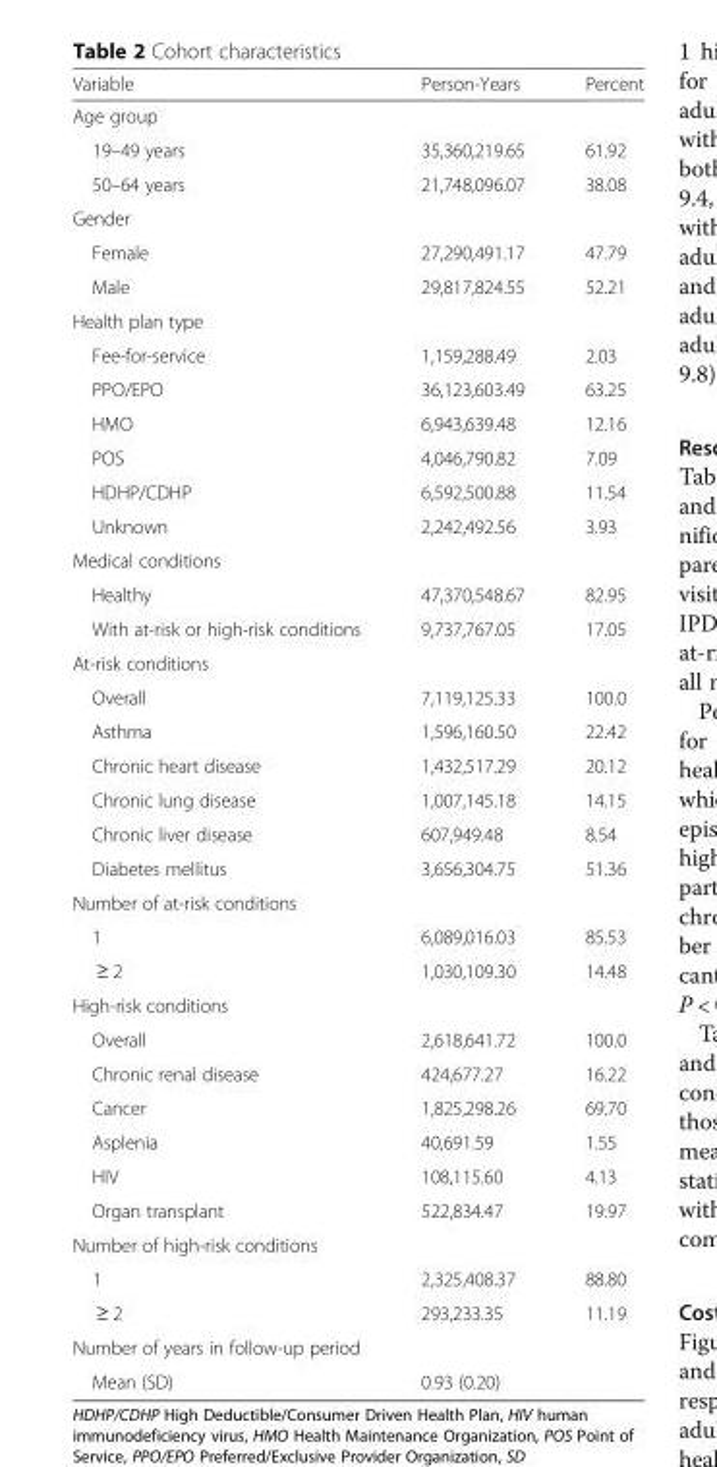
<table><thead><tr><td>Variable</td><td>Person-Years</td><td>Percent</td></tr></thead><tbody><tr><td colspan="3">Age group</td></tr><tr><td>19–49 years</td><td>35,360,219.65</td><td>61.92</td></tr><tr><td>50–64 years</td><td>21,748,096.07</td><td>38.08</td></tr><tr><td colspan="3">Gender</td></tr><tr><td>Female</td><td>27,290,491.17</td><td>47.79</td></tr><tr><td>Male</td><td>29,817,824.55</td><td>52.21</td></tr><tr><td colspan="3">Health plan type</td></tr><tr><td>Fee-for-service</td><td>1,159,288.49</td><td>2.03</td></tr><tr><td>PPO/EPO</td><td>36,123,603.49</td><td>63.25</td></tr><tr><td>HMO</td><td>6,943,639.48</td><td>12.16</td></tr><tr><td>POS</td><td>4,046,790.82</td><td>7.09</td></tr><tr><td>HDHP/CDHP</td><td>6,592,500.88</td><td>11.54</td></tr><tr><td>Unknown</td><td>2,242,492.56</td><td>3.93</td></tr><tr><td colspan="3">Medical conditions</td></tr><tr><td>Healthy</td><td>47,370,548.67</td><td>82.95</td></tr><tr><td>With at-risk or high-risk conditions</td><td>9,737,767.05</td><td>17.05</td></tr><tr><td colspan="3">At-risk conditions</td></tr><tr><td>Overall</td><td>7,119,125.33</td><td>100.0</td></tr><tr><td>Asthma</td><td>1,596,160.50</td><td>22.42</td></tr><tr><td>Chronic heart disease</td><td>1,432,517.29</td><td>20.12</td></tr><tr><td>Chronic lung disease</td><td>1,007,145.18</td><td>14.15</td></tr><tr><td>Chronic liver disease</td><td>607,949.48</td><td>8.54</td></tr><tr><td>Diabetes mellitus</td><td>3,656,304.75</td><td>51.36</td></tr><tr><td colspan="3">Number of at-risk conditions</td></tr><tr><td>1</td><td>6,089,016.03</td><td>85.53</td></tr><tr><td>≥ 2</td><td>1,030,109.30</td><td>14.48</td></tr><tr><td colspan="3">High-risk conditions</td></tr><tr><td>Overall</td><td>2,618,641.72</td><td>100.0</td></tr><tr><td>Chronic renal disease</td><td>424,677.27</td><td>16.22</td></tr><tr><td>Cancer</td><td>1,825,298.26</td><td>69.70</td></tr><tr><td>Asplenia</td><td>40,691.59</td><td>1.55</td></tr><tr><td>HIV</td><td>108,115.60</td><td>4.13</td></tr><tr><td>Organ transplant</td><td>522,834.47</td><td>19.97</td></tr><tr><td colspan="3">Number of high-risk conditions</td></tr><tr><td>1</td><td>2,325,408.37</td><td>88.80</td></tr><tr><td>≥ 2</td><td>293,233.35</td><td>11.19</td></tr><tr><td colspan="3">Number of years in follow-up period</td></tr><tr><td>Mean (SD)</td><td>0.93 (0.20)</td><td></td></tr></tbody></table>